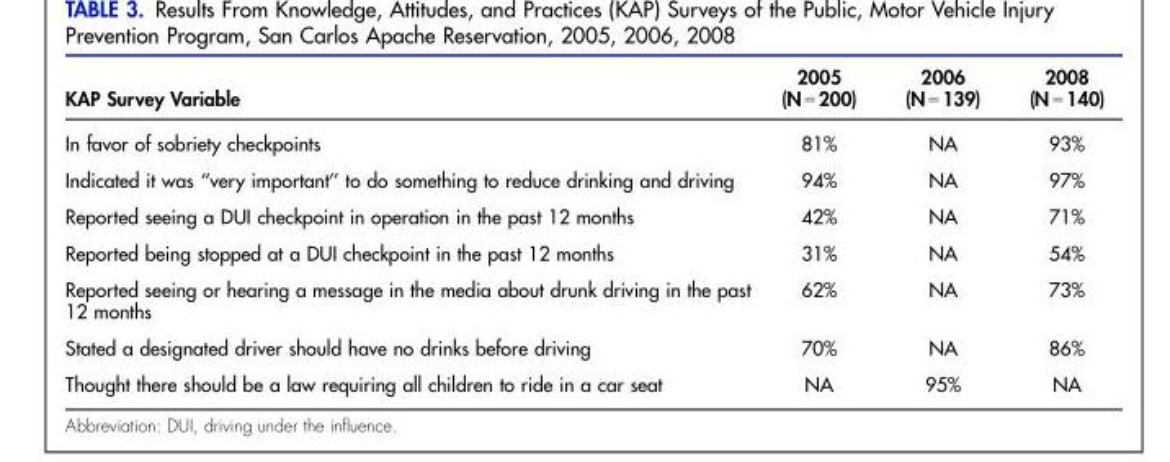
<table><thead><tr><td>KAP Survey Variable</td><td>2005 (N = 200)</td><td>2006 (N = 139)</td><td>2008 (N = 140)</td></tr></thead><tbody><tr><td>In favor of sobriety checkpoints</td><td>81%</td><td>NA</td><td>93%</td></tr><tr><td>Indicated it was ‘‘very important’’ to do something to reduce drinking and driving</td><td>94%</td><td>NA</td><td>97%</td></tr><tr><td>Reported seeing a DUI checkpoint in operation in the past 12 months</td><td>42%</td><td>NA</td><td>71%</td></tr><tr><td>Reported being stopped at a DUI checkpoint in the past 12 months</td><td>31%</td><td>NA</td><td>54%</td></tr><tr><td>Reported seeing or hearing a message in the media about drunk driving in the past 12 months</td><td>62%</td><td>NA</td><td>73%</td></tr><tr><td>Stated a designated driver should have no drinks before driving</td><td>70%</td><td>NA</td><td>86%</td></tr><tr><td>Thought there should be a law requiring all children to ride in a car seat</td><td>NA</td><td>95%</td><td>NA</td></tr></tbody></table>